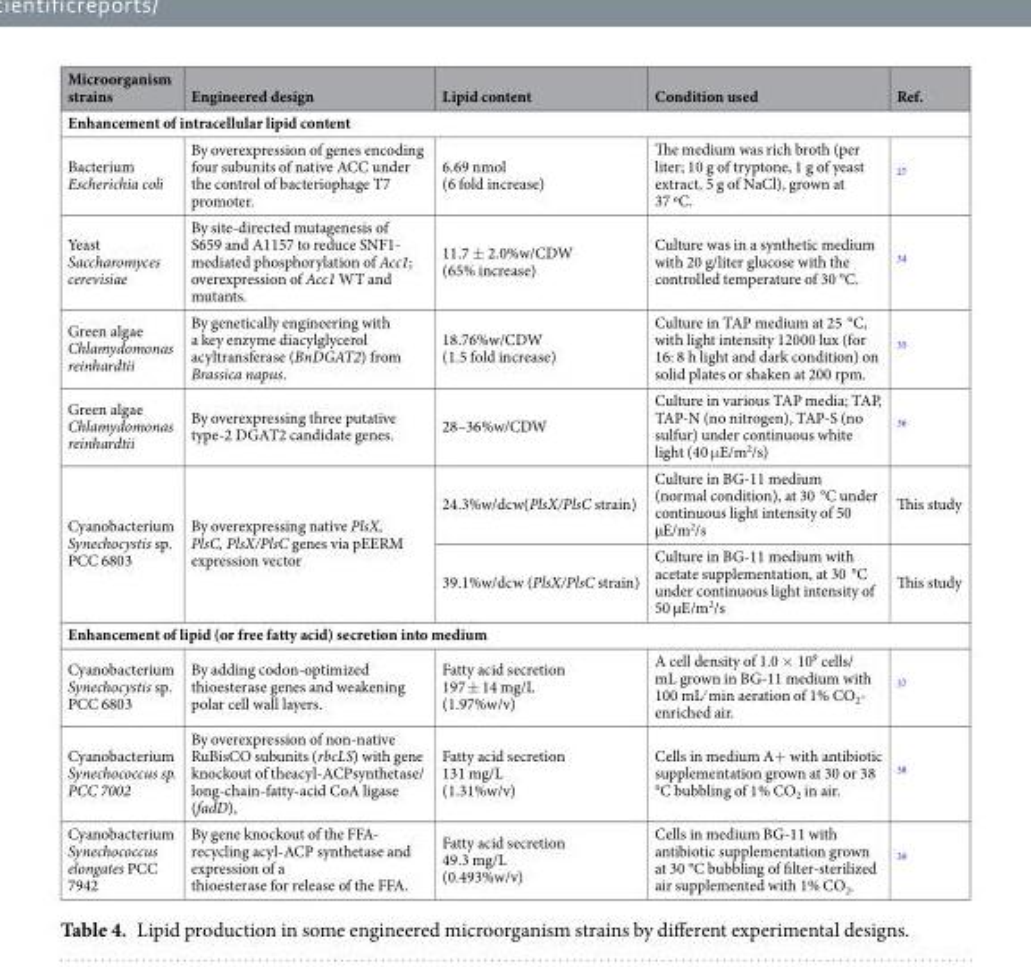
<table><thead><tr><td>Microorganism strains</td><td>Engineered design</td><td>Lipid content</td><td>Condition used</td><td>Ref.</td></tr></thead><tbody><tr><td colspan="5">Enhancement of intracellular lipid content</td></tr><tr><td>Bacterium Escherichia coli</td><td>By overexpression of genes encoding four subunits of native ACC under the control of bacteriophage T7 promoter.</td><td>6.69 nmol (6 fold increase)</td><td>The medium was rich broth (per liter; 10 g of tryptone, 1 g of yeast extract, 5 g of NaCl), grown at 37 ºC.</td><td><sup>27</sup></td></tr><tr><td>Yeast Saccharomyces cerevisiae</td><td>By site-directed mutagenesis of S659 and A1157 to reduce SNF1- mediated phosphorylation of Acc1; overexpression of Acc1 WT and mutants.</td><td>11.7 ± 2.0%w/CDW (65% increase)</td><td>Culture was in a synthetic medium with 20 g/liter glucose with the controlled temperature of 30 °C.</td><td><sup>34</sup></td></tr><tr><td>Green algae Chlamydomonas reinhardtii</td><td>By genetically engineering with a key enzyme diacylglycerol acyltransferase (BnDGAT2) from Brassica napus.</td><td>18.76%w/CDW (1.5 fold increase)</td><td>Culture in TAP medium at 25 °C, with light intensity 12000 lux (for 16: 8 h light and dark condition) on solid plates or shaken at 200 rpm.</td><td><sup>35</sup></td></tr><tr><td>Green algae Chlamydomonas reinhardtii</td><td>By overexpressing three putative type-2 DGAT2 candidate genes.</td><td>28–36%w/CDW</td><td>Culture in various TAP media; TAP, TAP-N (no nitrogen), TAP-S (no sulfur) under continuous white light (40 μE/m<sup>2</sup>/s)</td><td><sup>36</sup></td></tr><tr><td rowspan="2">Cyanobacterium Synechocystis sp. PCC 6803</td><td rowspan="2">By overexpressing native PlsX, PlsC, PlsX/PlsC genes via pEERM expression vector</td><td>24.3%w/dcw(PlsX/PlsC strain)</td><td>Culture in BG-11 medium (normal condition), at 30 °C under continuous light intensity of 50 µE/m<sup>2</sup>/s</td><td>This study</td></tr><tr><td>39.1%w/dcw (PlsX/PlsC strain)</td><td>Culture in BG-11 medium with acetate supplementation, at 30 °C under continuous light intensity of 50 µE/m<sup>2</sup>/s</td><td>This study</td></tr><tr><td colspan="5">Enhancement of lipid (or free fatty acid) secretion into medium</td></tr><tr><td>Cyanobacterium Synechocystis sp. PCC 6803</td><td>By adding codon-optimized thioesterase genes and weakening polar cell wall layers.</td><td>Fatty acid secretion 197 ± 14 mg/L (1.97%w/v)</td><td>A cell density of 1.0 × 10<sup>9</sup> cells/ mL grown in BG-11 medium with 100 mL∕ min aeration of 1% CO<sub>2</sub>- enriched air.</td><td><sup>37</sup></td></tr><tr><td>Cyanobacterium Synechococcus sp. PCC 7002</td><td>By overexpression of non-native RuBisCO subunits (rbcLS) with gene knockout of theacyl-ACPsynthetase/ long-chain-fatty-acid CoA ligase (fadD),</td><td>Fatty acid secretion 131 mg/L (1.31%w/v)</td><td>Cells in medium A+ with antibiotic supplementation grown at 30 or 38 °C bubbling of 1% CO<sub>2</sub> in air.</td><td><sup>38</sup></td></tr><tr><td>Cyanobacterium Synechococcus elongates PCC 7942</td><td>By gene knockout of the FFA- recycling acyl-ACP synthetase and expression of a thioesterase for release of the FFA.</td><td>Fatty acid secretion 49.3 mg/L (0.493%w/v)</td><td>Cells in medium BG-11 with antibiotic supplementation grown at 30 °C bubbling of filter-sterilized air supplemented with 1% CO<sub>2</sub>.</td><td><sup>39</sup></td></tr></tbody></table>